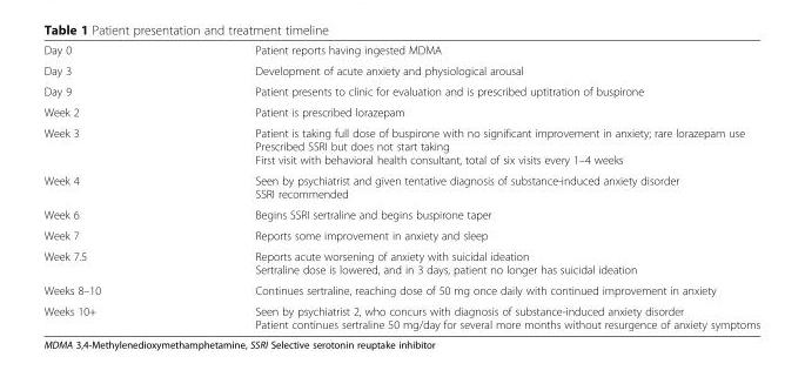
<table><tbody><tr><td>Day 0</td><td>Patient reports having ingested MDMA</td></tr><tr><td>Day 3</td><td>Development of acute anxiety and physiological arousal</td></tr><tr><td>Day 9</td><td>Patient presents to clinic for evaluation and is prescribed uptitration of buspirone</td></tr><tr><td>Week 2</td><td>Patient is prescribed lorazepam</td></tr><tr><td>Week 3</td><td>Patient is taking full dose of buspirone with no significant improvement in anxiety; rare lorazepam use Prescribed SSRI but does not start taking First visit with behavioral health consultant, total of six visits every 1–4 weeks</td></tr><tr><td>Week 4</td><td>Seen by psychiatrist and given tentative diagnosis of substance-induced anxiety disorder SSRI recommended</td></tr><tr><td>Week 6</td><td>Begins SSRI sertraline and begins buspirone taper</td></tr><tr><td>Week 7</td><td>Reports some improvement in anxiety and sleep</td></tr><tr><td>Week 7.5</td><td>Reports acute worsening of anxiety with suicidal ideation Sertraline dose is lowered, and in 3 days, patient no longer has suicidal ideation</td></tr><tr><td>Weeks 8–10</td><td>Continues sertraline, reaching dose of 50 mg once daily with continued improvement in anxiety</td></tr><tr><td>Weeks 10+</td><td>Seen by psychiatrist 2, who concurs with diagnosis of substance-induced anxiety disorder Patient continues sertraline 50 mg/day for several more months without resurgence of anxiety symptoms</td></tr></tbody></table>